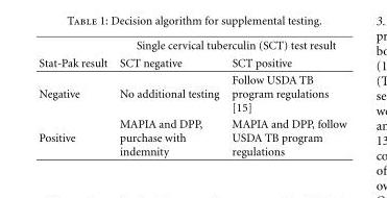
<table><thead><tr><td rowspan="2">Stat-Pak result</td><td colspan="2">Single cervical tuberculin (SCT) test result</td></tr><tr><td>SCT negative</td><td>SCT positive</td></tr></thead><tbody><tr><td>Negative</td><td>No additional testing</td><td>Follow USDA TB program regulations [15]</td></tr><tr><td>Positive</td><td>MAPIA and DPP, purchase with indemnity</td><td>MAPIA and DPP, follow USDA TB program regulations</td></tr></tbody></table>